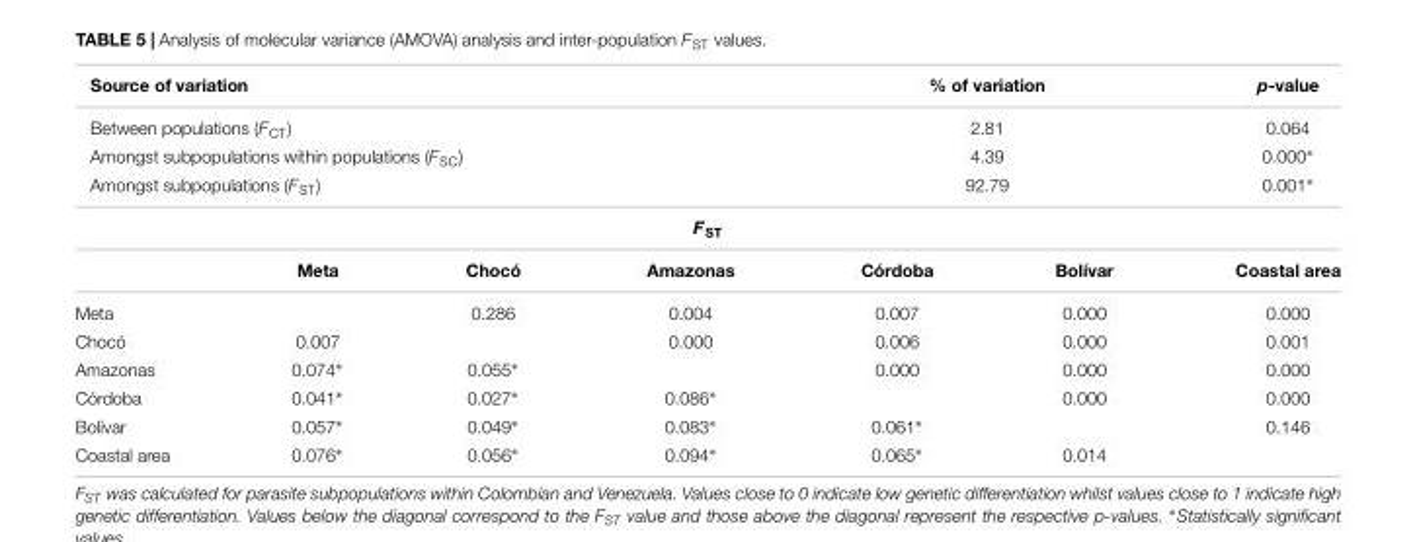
<table><thead><tr><td colspan="4">Source of variation</td><td colspan="2">% of variation</td><td>p-value</td></tr></thead><tbody><tr><td colspan="4">Between populations (F<sub>CT</sub>)</td><td colspan="2">2.81</td><td>0.064</td></tr><tr><td colspan="4">Amongst subpopulations within populations (F<sub>SC</sub>)</td><td colspan="2">4.39</td><td>0.000∗</td></tr><tr><td colspan="4">Amongst subpopulations (F<sub>ST</sub>)</td><td colspan="2">92.79</td><td>0.001∗</td></tr><tr><td colspan="7">F<sub>ST</sub></td></tr><tr><td></td><td>Meta</td><td>Chocó</td><td>Amazonas</td><td>Córdoba</td><td>Bolívar</td><td>Coastal area</td></tr><tr><td>Meta</td><td></td><td>0.286</td><td>0.004</td><td>0.007</td><td>0.000</td><td>0.000</td></tr><tr><td>Chocó</td><td>0.007</td><td></td><td>0.000</td><td>0.006</td><td>0.000</td><td>0.001</td></tr><tr><td>Amazonas</td><td>0.074∗</td><td>0.055∗</td><td></td><td>0.000</td><td>0.000</td><td>0.000</td></tr><tr><td>Córdoba</td><td>0.041∗</td><td>0.027∗</td><td>0.086∗</td><td></td><td>0.000</td><td>0.000</td></tr><tr><td>Bolívar</td><td>0.057∗</td><td>0.049∗</td><td>0.083∗</td><td>0.061∗</td><td></td><td>0.146</td></tr><tr><td>Coastal area</td><td>0.076∗</td><td>0.056∗</td><td>0.094∗</td><td>0.065∗</td><td>0.014</td><td></td></tr></tbody></table>